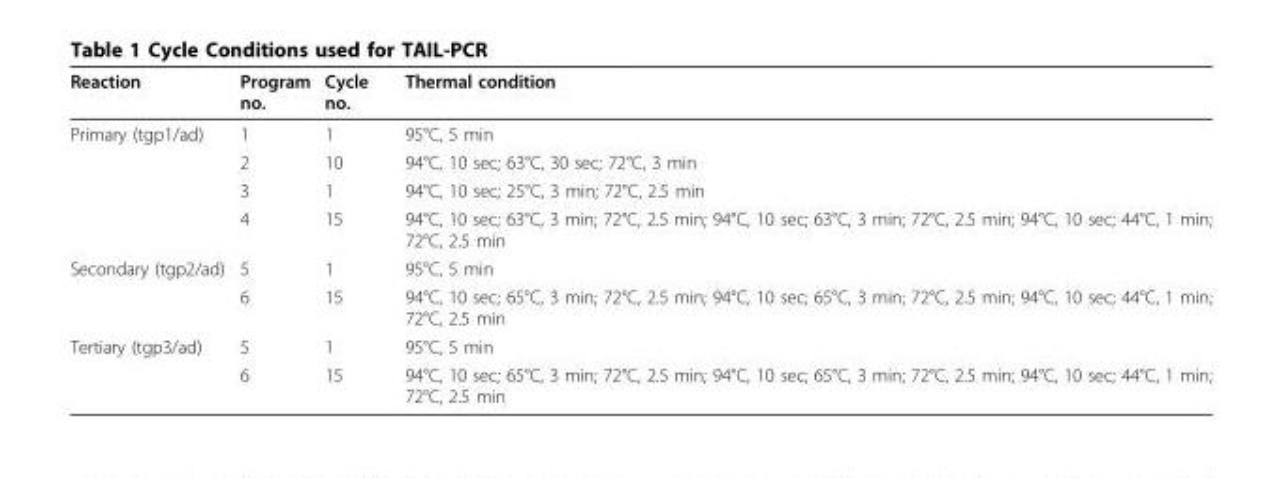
<table><thead><tr><td>Reaction</td><td>Program no.</td><td>Cycle no.</td><td>Thermal condition</td></tr></thead><tbody><tr><td rowspan="4">Primary (tgp1/ad)</td><td>1</td><td>1</td><td>95°C, 5 min</td></tr><tr><td>2</td><td>10</td><td>94°C, 10 sec; 63°C, 30 sec; 72°C, 3 min</td></tr><tr><td>3</td><td>1</td><td>94°C, 10 sec; 25°C, 3 min; 72°C, 2.5 min</td></tr><tr><td>4</td><td>15</td><td>94°C, 10 sec; 63°C, 3 min; 72°C, 2.5 min; 94°C, 10 sec; 63°C, 3 min; 72°C, 2.5 min; 94°C, 10 sec; 44°C, 1 min; 72°C, 2.5 min</td></tr><tr><td rowspan="2">Secondary (tgp2/ad)</td><td>5</td><td>1</td><td>95°C, 5 min</td></tr><tr><td>6</td><td>15</td><td>94°C, 10 sec; 65°C, 3 min; 72°C, 2.5 min; 94°C, 10 sec; 65°C, 3 min; 72°C, 2.5 min; 94°C, 10 sec; 44°C, 1 min; 72°C, 2.5 min</td></tr><tr><td rowspan="2">Tertiary (tgp3/ad)</td><td>5</td><td>1</td><td>95°C, 5 min</td></tr><tr><td>6</td><td>15</td><td>94°C, 10 sec; 65°C, 3 min; 72°C, 2.5 min; 94°C, 10 sec; 65°C, 3 min; 72°C, 2.5 min; 94°C, 10 sec; 44°C, 1 min; 72°C, 2.5 min</td></tr></tbody></table>